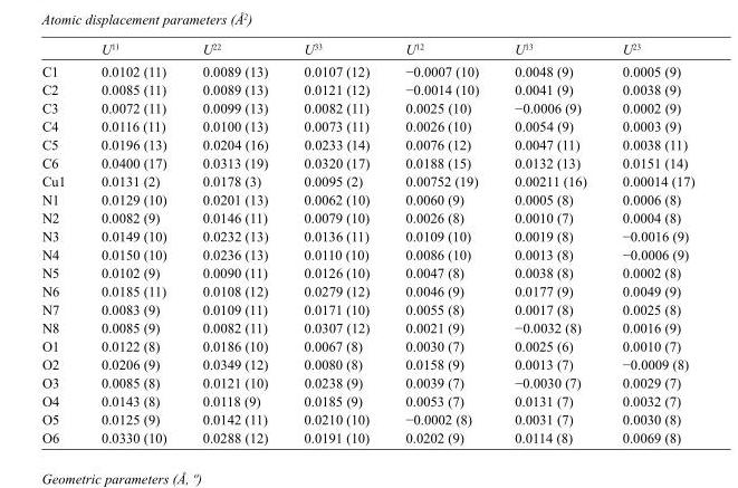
<table><thead><tr><td></td><td>U<sup>11</sup></td><td>U<sup>22</sup></td><td>U<sup>33</sup></td><td>U<sup>12</sup></td><td>U<sup>13</sup></td><td>U<sup>23</sup></td></tr></thead><tbody><tr><td>C1</td><td>0.0102 (11)</td><td>0.0089 (13)</td><td>0.0107 (12)</td><td>−0.0007 (10)</td><td>0.0048 (9)</td><td>0.0005 (9)</td></tr><tr><td>C2</td><td>0.0085 (11)</td><td>0.0089 (13)</td><td>0.0121 (12)</td><td>−0.0014 (10)</td><td>0.0041 (9)</td><td>0.0038 (9)</td></tr><tr><td>C3</td><td>0.0072 (11)</td><td>0.0099 (13)</td><td>0.0082 (11)</td><td>0.0025 (10)</td><td>−0.0006 (9)</td><td>0.0002 (9)</td></tr><tr><td>C4</td><td>0.0116 (11)</td><td>0.0100 (13)</td><td>0.0073 (11)</td><td>0.0026 (10)</td><td>0.0054 (9)</td><td>0.0003 (9)</td></tr><tr><td>C5</td><td>0.0196 (13)</td><td>0.0204 (16)</td><td>0.0233 (14)</td><td>0.0076 (12)</td><td>0.0047 (11)</td><td>0.0038 (11)</td></tr><tr><td>C6</td><td>0.0400 (17)</td><td>0.0313 (19)</td><td>0.0320 (17)</td><td>0.0188 (15)</td><td>0.0132 (13)</td><td>0.0151 (14)</td></tr><tr><td>Cu1</td><td>0.0131 (2)</td><td>0.0178 (3)</td><td>0.0095 (2)</td><td>0.00752 (19)</td><td>0.00211 (16)</td><td>0.00014 (17)</td></tr><tr><td>N1</td><td>0.0129 (10)</td><td>0.0201 (13)</td><td>0.0062 (10)</td><td>0.0060 (9)</td><td>0.0005 (8)</td><td>0.0006 (8)</td></tr><tr><td>N2</td><td>0.0082 (9)</td><td>0.0146 (11)</td><td>0.0079 (10)</td><td>0.0026 (8)</td><td>0.0010 (7)</td><td>0.0004 (8)</td></tr><tr><td>N3</td><td>0.0149 (10)</td><td>0.0232 (13)</td><td>0.0136 (11)</td><td>0.0109 (10)</td><td>0.0019 (8)</td><td>−0.0016 (9)</td></tr><tr><td>N4</td><td>0.0150 (10)</td><td>0.0236 (13)</td><td>0.0110 (10)</td><td>0.0086 (10)</td><td>0.0013 (8)</td><td>−0.0006 (9)</td></tr><tr><td>N5</td><td>0.0102 (9)</td><td>0.0090 (11)</td><td>0.0126 (10)</td><td>0.0047 (8)</td><td>0.0038 (8)</td><td>0.0002 (8)</td></tr><tr><td>N6</td><td>0.0185 (11)</td><td>0.0108 (12)</td><td>0.0279 (12)</td><td>0.0046 (9)</td><td>0.0177 (9)</td><td>0.0049 (9)</td></tr><tr><td>N7</td><td>0.0083 (9)</td><td>0.0109 (11)</td><td>0.0171 (10)</td><td>0.0055 (8)</td><td>0.0017 (8)</td><td>0.0025 (8)</td></tr><tr><td>N8</td><td>0.0085 (9)</td><td>0.0082 (11)</td><td>0.0307 (12)</td><td>0.0021 (9)</td><td>−0.0032 (8)</td><td>0.0016 (9)</td></tr><tr><td>O1</td><td>0.0122 (8)</td><td>0.0186 (10)</td><td>0.0067 (8)</td><td>0.0030 (7)</td><td>0.0025 (6)</td><td>0.0010 (7)</td></tr><tr><td>O2</td><td>0.0206 (9)</td><td>0.0349 (12)</td><td>0.0080 (8)</td><td>0.0158 (9)</td><td>0.0013 (7)</td><td>−0.0009 (8)</td></tr><tr><td>O3</td><td>0.0085 (8)</td><td>0.0121 (10)</td><td>0.0238 (9)</td><td>0.0039 (7)</td><td>−0.0030 (7)</td><td>0.0029 (7)</td></tr><tr><td>O4</td><td>0.0143 (8)</td><td>0.0118 (9)</td><td>0.0185 (9)</td><td>0.0053 (7)</td><td>0.0131 (7)</td><td>0.0032 (7)</td></tr><tr><td>O5</td><td>0.0125 (9)</td><td>0.0142 (11)</td><td>0.0210 (10)</td><td>−0.0002 (8)</td><td>0.0031 (7)</td><td>0.0030 (8)</td></tr><tr><td>O6</td><td>0.0330 (10)</td><td>0.0288 (12)</td><td>0.0191 (10)</td><td>0.0202 (9)</td><td>0.0114 (8)</td><td>0.0069 (8)</td></tr></tbody></table>